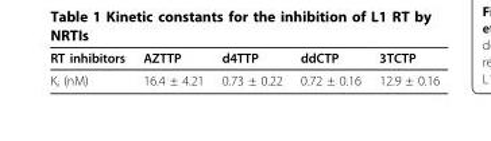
<table><thead><tr><td>RT inhibitors</td><td>AZTTP</td><td>d4TTP</td><td>ddCTP</td><td>3TCTP</td></tr></thead><tbody><tr><td>K<sub>i</sub> (nM)</td><td>16.4 ± 4.21</td><td>0.73 ± 0.22</td><td>0.72 ± 0.16</td><td>12.9 ± 0.16</td></tr></tbody></table>